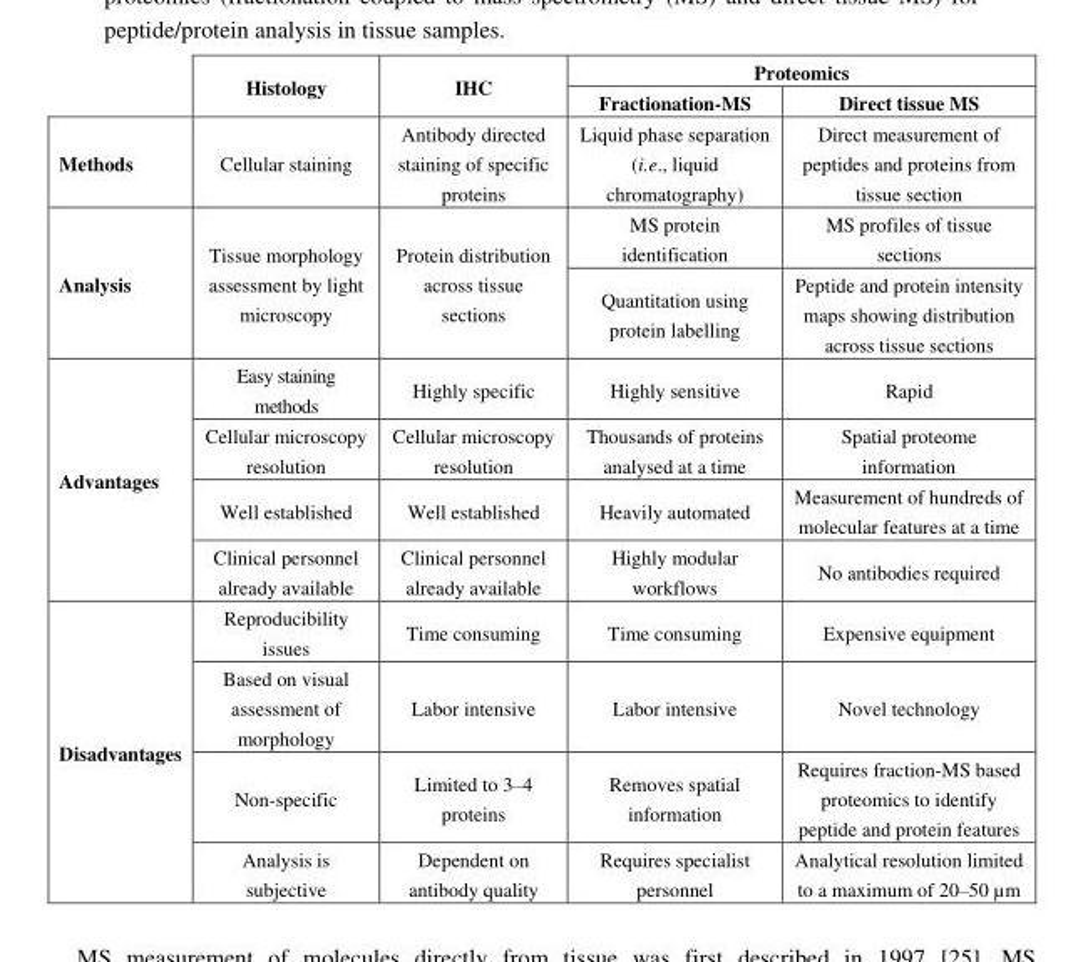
<table><thead><tr><td rowspan="2"></td><td rowspan="2">Histology</td><td rowspan="2">IHC</td><td colspan="2">Proteomics</td></tr><tr><td>Fractionation-MS</td><td>Direct tissue MS</td></tr></thead><tbody><tr><td>Methods</td><td>Cellular staining</td><td>Antibody directed staining of specific proteins</td><td>Liquid phase separation (i.e., liquid chromatography)</td><td>Direct measurement of peptides and proteins from tissue section</td></tr><tr><td rowspan="2">Analysis</td><td rowspan="2">Tissue morphology assessment by light microscopy</td><td rowspan="2">Protein distribution across tissue sections</td><td>MS protein identification</td><td>MS profiles of tissue sections</td></tr><tr><td>Quantitation using protein labelling</td><td>Peptide and protein intensity maps showing distribution across tissue sections</td></tr><tr><td rowspan="4">Advantages</td><td>Easy staining methods</td><td>Highly specific</td><td>Highly sensitive</td><td>Rapid</td></tr><tr><td>Cellular microscopy resolution</td><td>Cellular microscopy resolution</td><td>Thousands of proteins analysed at a time</td><td>Spatial proteome information</td></tr><tr><td>Well established</td><td>Well established</td><td>Heavily automated</td><td>Measurement of hundreds of molecular features at a time</td></tr><tr><td>Clinical personnel already available</td><td>Clinical personnel already available</td><td>Highly modular workflows</td><td>No antibodies required</td></tr><tr><td rowspan="4">Disadvantages</td><td>Reproducibility issues</td><td>Time consuming</td><td>Time consuming</td><td>Expensive equipment</td></tr><tr><td>Based on visual assessment of morphology</td><td>Labor intensive</td><td>Labor intensive</td><td>Novel technology</td></tr><tr><td>Non-specific</td><td>Limited to 3–4 proteins</td><td>Removes spatial information</td><td>Requires fraction-MS based proteomics to identify peptide and protein features</td></tr><tr><td>Analysis is subjective</td><td>Dependent on antibody quality</td><td>Requires specialist personnel</td><td>Analytical resolution limited to a maximum of 20–50 µm</td></tr></tbody></table>